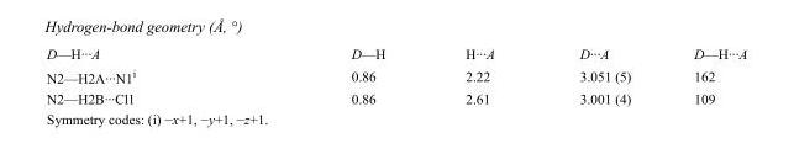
<table><tbody><tr><td>D—H···A</td><td>D—H</td><td>H···A</td><td>D···A</td><td>D—H···A</td></tr><tr><td>N2—H2A···N1<sup>i</sup></td><td>0.86</td><td>2.22</td><td>3.051 (5)</td><td>162</td></tr><tr><td>N2—H2B···Cl1</td><td>0.86</td><td>2.61</td><td>3.001 (4)</td><td>109</td></tr></tbody></table>